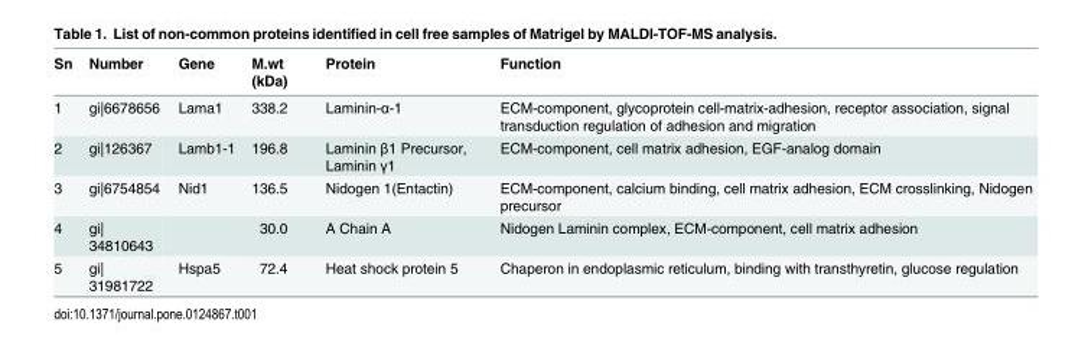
<table><thead><tr><td>Sn</td><td>Number</td><td>Gene</td><td>M.wt (kDa)</td><td>Protein</td><td>Function</td></tr></thead><tbody><tr><td>1</td><td>gi|6678656</td><td>Lama1</td><td>338.2</td><td>Laminin-α-1</td><td>ECM-component, glycoprotein cell-matrix-adhesion, receptor association, signal transduction regulation of adhesion and migration</td></tr><tr><td>2</td><td>gi|126367</td><td>Lamb1-1</td><td>196.8</td><td>Laminin β1 Precursor, Laminin γ1</td><td>ECM-component, cell matrix adhesion, EGF-analog domain</td></tr><tr><td>3</td><td>gi|6754854</td><td>Nid1</td><td>136.5</td><td>Nidogen 1(Entactin)</td><td>ECM-component, calcium binding, cell matrix adhesion, ECM crosslinking, Nidogen precursor</td></tr><tr><td>4</td><td>gi| 34810643</td><td></td><td>30.0</td><td>A Chain A</td><td>Nidogen Laminin complex, ECM-component, cell matrix adhesion</td></tr><tr><td>5</td><td>gi| 31981722</td><td>Hspa5</td><td>72.4</td><td>Heat shock protein 5</td><td>Chaperon in endoplasmic reticulum, binding with transthyretin, glucose regulation</td></tr></tbody></table>